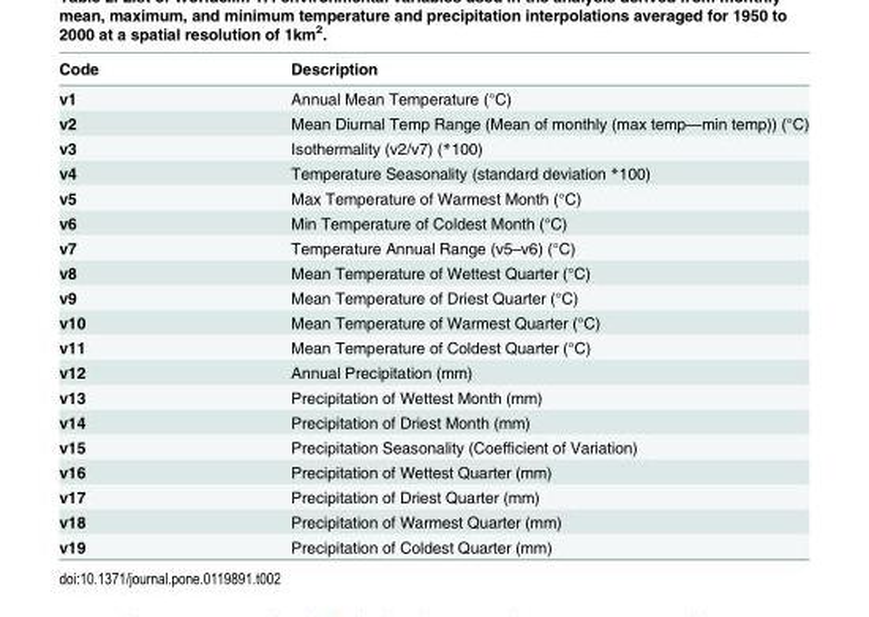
<table><thead><tr><td>Code</td><td>Description</td></tr></thead><tbody><tr><td>v1</td><td>Annual Mean Temperature (°C)</td></tr><tr><td>v2</td><td>Mean Diurnal Temp Range (Mean of monthly (max temp—min temp)) (°C)</td></tr><tr><td>v3</td><td>Isothermality (v2/v7) (*100)</td></tr><tr><td>v4</td><td>Temperature Seasonality (standard deviation *100)</td></tr><tr><td>v5</td><td>Max Temperature of Warmest Month (°C)</td></tr><tr><td>v6</td><td>Min Temperature of Coldest Month (°C)</td></tr><tr><td>v7</td><td>Temperature Annual Range (v5–v6) (°C)</td></tr><tr><td>v8</td><td>Mean Temperature of Wettest Quarter (°C)</td></tr><tr><td>v9</td><td>Mean Temperature of Driest Quarter (°C)</td></tr><tr><td>v10</td><td>Mean Temperature of Warmest Quarter (°C)</td></tr><tr><td>v11</td><td>Mean Temperature of Coldest Quarter (°C)</td></tr><tr><td>v12</td><td>Annual Precipitation (mm)</td></tr><tr><td>v13</td><td>Precipitation of Wettest Month (mm)</td></tr><tr><td>v14</td><td>Precipitation of Driest Month (mm)</td></tr><tr><td>v15</td><td>Precipitation Seasonality (Coefficient of Variation)</td></tr><tr><td>v16</td><td>Precipitation of Wettest Quarter (mm)</td></tr><tr><td>v17</td><td>Precipitation of Driest Quarter (mm)</td></tr><tr><td>v18</td><td>Precipitation of Warmest Quarter (mm)</td></tr><tr><td>v19</td><td>Precipitation of Coldest Quarter (mm)</td></tr></tbody></table>